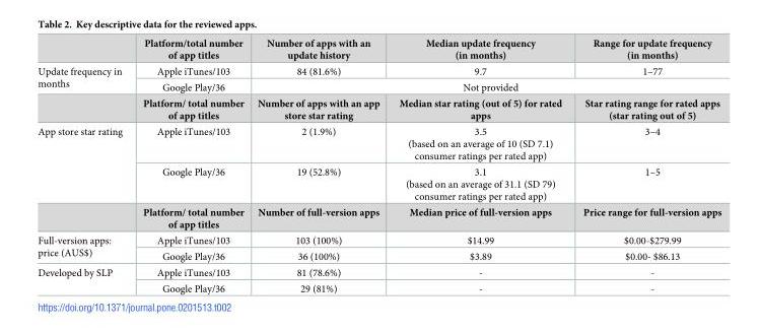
<table><thead><tr><td></td><td>Platform/total number of app titles</td><td>Number of apps with an update history</td><td>Median update frequency (in months)</td><td>Range for update frequency (in months)</td></tr></thead><tbody><tr><td rowspan="3">Update frequency in months</td><td>Apple iTunes/103</td><td>84 (81.6%)</td><td>9.7</td><td>1–77</td></tr><tr><td>Google Play/36</td><td colspan="3">Not provided</td></tr><tr><td>Platform/ total number of app titles</td><td>Number of apps with an app store star rating</td><td>Median star rating (out of 5) for rated apps</td><td>Star rating range for rated apps (star rating out of 5)</td></tr><tr><td rowspan="3">App store star rating</td><td>Apple iTunes/103</td><td>2 (1.9%)</td><td>3.5 (based on an average of 10 (SD 7.1) consumer ratings per rated app)</td><td>3–4</td></tr><tr><td>Google Play/36</td><td>19 (52.8%)</td><td>3.1 (based on an average of 31.1 (SD 79) consumer ratings per rated app)</td><td>1–5</td></tr><tr><td>Platform/ total number of app titles</td><td>Number of full-version apps</td><td>Median price of full-version apps</td><td>Price range for full-version apps</td></tr><tr><td rowspan="2">Full-version apps: price (AUS$)</td><td>Apple iTunes/103</td><td>103 (100%)</td><td>$14.99</td><td>$0.00-$279.99</td></tr><tr><td>Google Play/36</td><td>36 (100%)</td><td>$3.89</td><td>$0.00- $86.13</td></tr><tr><td rowspan="2">Developed by SLP</td><td>Apple iTunes/103</td><td>81 (78.6%)</td><td>-</td><td>-</td></tr><tr><td>Google Play/36</td><td>29 (81%)</td><td>-</td><td>-</td></tr></tbody></table>